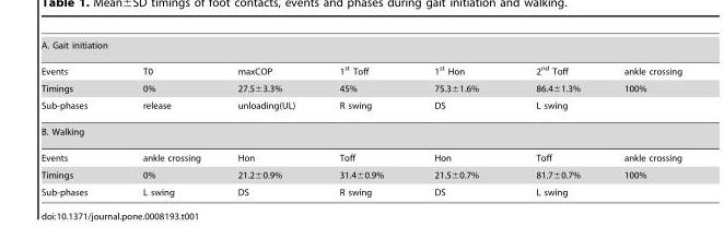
<table><tbody><tr><td colspan="7">A. Gait initiation</td></tr><tr><td>Events</td><td>T0</td><td>maxCOP</td><td>1<sup>st</sup> Toff</td><td>1<sup>st</sup> Hon</td><td>2<sup>nd</sup> Toff</td><td>ankle crossing</td></tr><tr><td>Timings</td><td>0%</td><td>27.5±3.3%</td><td>45%</td><td>75.3±1.6%</td><td>86.4±1.3%</td><td>100%</td></tr><tr><td>Sub-phases</td><td>release</td><td>unloading(UL)</td><td>R swing</td><td>DS</td><td>L swing</td><td></td></tr><tr><td colspan="7">B. Walking</td></tr><tr><td>Events</td><td>ankle crossing</td><td>Hon</td><td>Toff</td><td>Hon</td><td>Toff</td><td>ankle crossing</td></tr><tr><td>Timings</td><td>0%</td><td>21.2±0.9%</td><td>31.4±0.9%</td><td>21.5±0.7%</td><td>81.7±0.7%</td><td>100%</td></tr><tr><td>Sub-phases</td><td>L swing</td><td>DS</td><td>R swing</td><td>DS</td><td>L swing</td><td></td></tr></tbody></table>